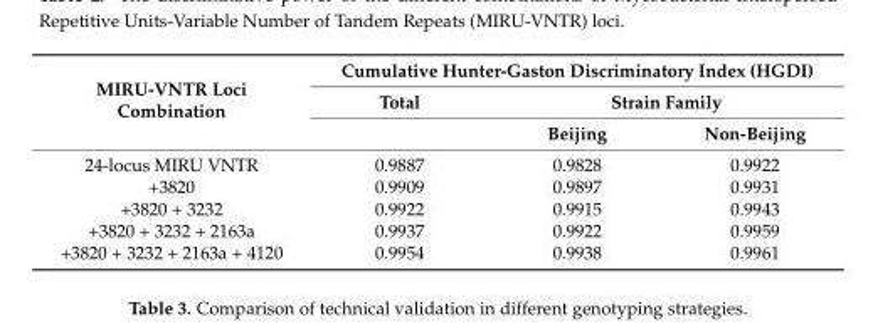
<table><thead><tr><td rowspan="3">MIRU-VNTR Loci Combination</td><td colspan="3">Cumulative Hunter-Gaston Discriminatory Index (HGDI)</td></tr><tr><td rowspan="2">Total</td><td colspan="2">Strain Family</td></tr><tr><td>Beijing</td><td>Non-Beijing</td></tr></thead><tbody><tr><td>24-locus MIRU VNTR</td><td>0.9887</td><td>0.9828</td><td>0.9922</td></tr><tr><td>+3820</td><td>0.9909</td><td>0.9897</td><td>0.9931</td></tr><tr><td>+3820 + 3232</td><td>0.9922</td><td>0.9915</td><td>0.9943</td></tr><tr><td>+3820 + 3232 + 2163a</td><td>0.9937</td><td>0.9922</td><td>0.9959</td></tr><tr><td>+3820 + 3232 + 2163a + 4120</td><td>0.9954</td><td>0.9938</td><td>0.9961</td></tr></tbody></table>